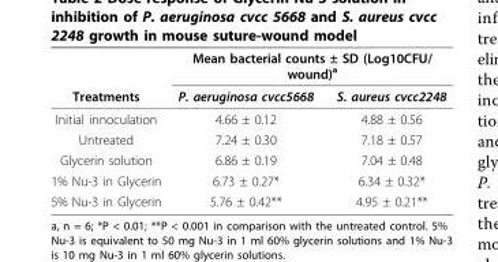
<table><thead><tr><td rowspan="2">Treatments</td><td colspan="2">Mean bacterial counts ± SD (Log10CFU/ wound)<sup>a</sup></td></tr><tr><td>P. aeruginosa cvcc5668</td><td>S. aureus cvcc2248</td></tr></thead><tbody><tr><td>Initial innoculation</td><td>4.66 ± 0.12</td><td>4.88 ± 0.56</td></tr><tr><td>Untreated</td><td>7.24 ± 0.30</td><td>7.18 ± 0.57</td></tr><tr><td>Glycerin solution</td><td>6.86 ± 0.19</td><td>7.04 ± 0.48</td></tr><tr><td>1% Nu-3 in Glycerin</td><td>6.73 ± 0.27*</td><td>6.34 ± 0.32*</td></tr><tr><td>5% Nu-3 in Glycerin</td><td>5.76 ± 0.42**</td><td>4.95 ± 0.21**</td></tr></tbody></table>